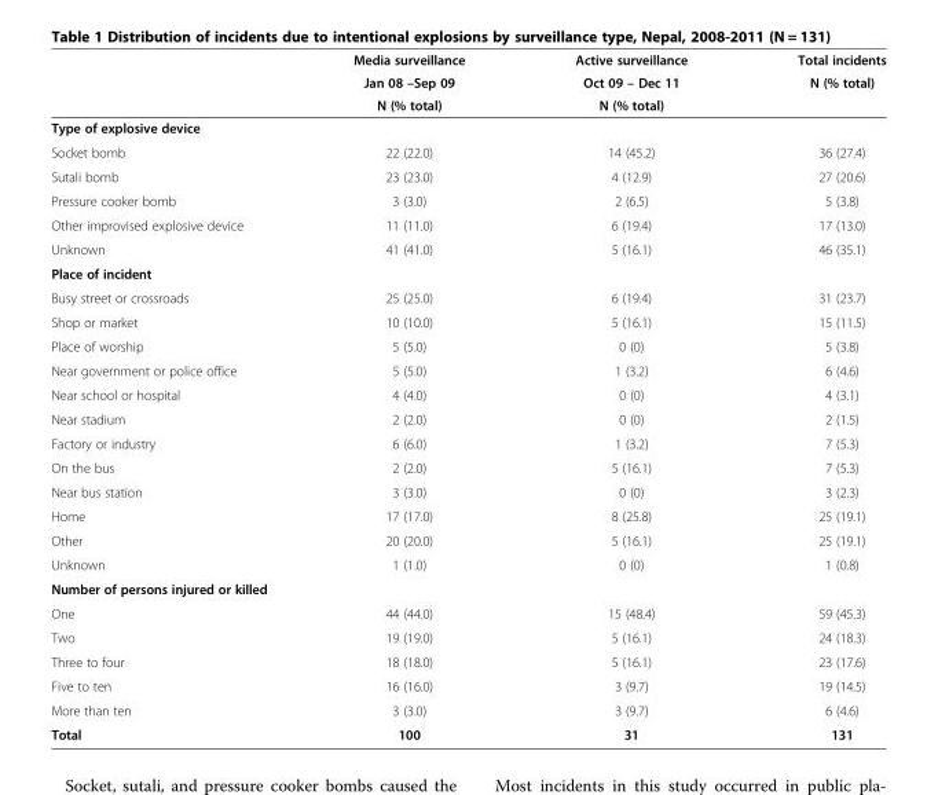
<table><thead><tr><td rowspan="3"></td><td rowspan="3">Media surveillance Jan 08 –Sep 09 N (% total)</td><td rowspan="3">Active surveillance Oct 09 – Dec 11 N (% total)</td><td rowspan="3">Total incidents N (% total)</td></tr><tr></tr><tr></tr></thead><tbody><tr><td colspan="4">Type of explosive device</td></tr><tr><td>Socket bomb</td><td>22 (22.0)</td><td>14 (45.2)</td><td>36 (27.4)</td></tr><tr><td>Sutali bomb</td><td>23 (23.0)</td><td>4 (12.9)</td><td>27 (20.6)</td></tr><tr><td>Pressure cooker bomb</td><td>3 (3.0)</td><td>2 (6.5)</td><td>5 (3.8)</td></tr><tr><td>Other improvised explosive device</td><td>11 (11.0)</td><td>6 (19.4)</td><td>17 (13.0)</td></tr><tr><td>Unknown</td><td>41 (41.0)</td><td>5 (16.1)</td><td>46 (35.1)</td></tr><tr><td colspan="4">Place of incident</td></tr><tr><td>Busy street or crossroads</td><td>25 (25.0)</td><td>6 (19.4)</td><td>31 (23.7)</td></tr><tr><td>Shop or market</td><td>10 (10.0)</td><td>5 (16.1)</td><td>15 (11.5)</td></tr><tr><td>Place of worship</td><td>5 (5.0)</td><td>0 (0)</td><td>5 (3.8)</td></tr><tr><td>Near government or police office</td><td>5 (5.0)</td><td>1 (3.2)</td><td>6 (4.6)</td></tr><tr><td>Near school or hospital</td><td>4 (4.0)</td><td>0 (0)</td><td>4 (3.1)</td></tr><tr><td>Near stadium</td><td>2 (2.0)</td><td>0 (0)</td><td>2 (1.5)</td></tr><tr><td>Factory or industry</td><td>6 (6.0)</td><td>1 (3.2)</td><td>7 (5.3)</td></tr><tr><td>On the bus</td><td>2 (2.0)</td><td>5 (16.1)</td><td>7 (5.3)</td></tr><tr><td>Near bus station</td><td>3 (3.0)</td><td>0 (0)</td><td>3 (2.3)</td></tr><tr><td>Home</td><td>17 (17.0)</td><td>8 (25.8)</td><td>25 (19.1)</td></tr><tr><td>Other</td><td>20 (20.0)</td><td>5 (16.1)</td><td>25 (19.1)</td></tr><tr><td>Unknown</td><td>1 (1.0)</td><td>0 (0)</td><td>1 (0.8)</td></tr><tr><td colspan="4">Number of persons injured or killed</td></tr><tr><td>One</td><td>44 (44.0)</td><td>15 (48.4)</td><td>59 (45.3)</td></tr><tr><td>Two</td><td>19 (19.0)</td><td>5 (16.1)</td><td>24 (18.3)</td></tr><tr><td>Three to four</td><td>18 (18.0)</td><td>5 (16.1)</td><td>23 (17.6)</td></tr><tr><td>Five to ten</td><td>16 (16.0)</td><td>3 (9.7)</td><td>19 (14.5)</td></tr><tr><td>More than ten</td><td>3 (3.0)</td><td>3 (9.7)</td><td>6 (4.6)</td></tr><tr><td>Total</td><td>100</td><td>31</td><td>131</td></tr></tbody></table>